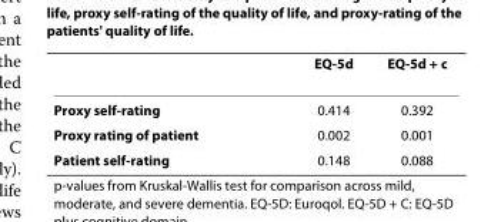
<table><thead><tr><td></td><td>EQ-5d</td><td>EQ-5d + c</td></tr></thead><tbody><tr><td>Proxy self-rating</td><td>0.414</td><td>0.392</td></tr><tr><td>Proxy rating of patient</td><td>0.002</td><td>0.001</td></tr><tr><td>Patient self-rating</td><td>0.148</td><td>0.088</td></tr></tbody></table>